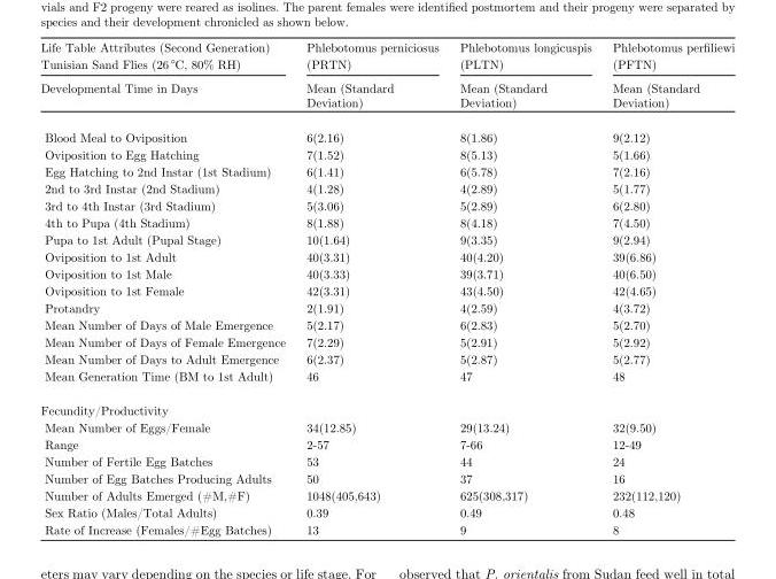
<table><thead><tr><td rowspan="3">Life Table Attributes (Second Generation) Tunisian Sand Flies (26 °C, 80% RH) Developmental Time in Days</td><td rowspan="3">Phlebotomus perniciosus (PRTN) Mean (Standard Deviation)</td><td rowspan="3">Phlebotomus longicuspis (PLTN) Mean (Standard Deviation)</td><td rowspan="3">Phlebotomus perfiliewi (PFTN) Mean (Standard Deviation)</td></tr><tr></tr><tr></tr></thead><tbody><tr><td>Blood Meal to Oviposition</td><td>6(2.16)</td><td>8(1.86)</td><td>9(2.12)</td></tr><tr><td>Oviposition to Egg Hatching</td><td>7(1.52)</td><td>8(5.13)</td><td>5(1.66)</td></tr><tr><td>Egg Hatching to 2nd Instar (1st Stadium)</td><td>6(1.41)</td><td>6(5.78)</td><td>7(2.16)</td></tr><tr><td>2nd to 3rd Instar (2nd Stadium)</td><td>4(1.28)</td><td>4(2.89)</td><td>5(1.77)</td></tr><tr><td>3rd to 4th Instar (3rd Stadium)</td><td>5(3.06)</td><td>5(2.89)</td><td>6(2.80)</td></tr><tr><td>4th to Pupa (4th Stadium)</td><td>8(1.88)</td><td>8(4.18)</td><td>7(4.50)</td></tr><tr><td>Pupa to 1st Adult (Pupal Stage)</td><td>10(1.64)</td><td>9(3.35)</td><td>9(2.94)</td></tr><tr><td>Oviposition to 1st Adult</td><td>40(3.31)</td><td>40(4.20)</td><td>39(6.86)</td></tr><tr><td>Oviposition to 1st Male</td><td>40(3.33)</td><td>39(3.71)</td><td>40(6.50)</td></tr><tr><td>Oviposition to 1st Female</td><td>42(3.31)</td><td>43(4.50)</td><td>42(4.65)</td></tr><tr><td>Protandry</td><td>2(1.91)</td><td>4(2.59)</td><td>4(3.72)</td></tr><tr><td>Mean Number of Days of Male Emergence</td><td>5(2.17)</td><td>6(2.83)</td><td>5(2.70)</td></tr><tr><td>Mean Number of Days of Female Emergence</td><td>7(2.29)</td><td>5(2.91)</td><td>5(2.92)</td></tr><tr><td>Mean Number of Days to Adult Emergence</td><td>6(2.37)</td><td>5(2.87)</td><td>5(2.77)</td></tr><tr><td>Mean Generation Time (BM to 1st Adult)</td><td>46</td><td>47</td><td>48</td></tr><tr><td colspan="4">Fecundity/Productivity</td></tr><tr><td>Mean Number of Eggs/Female</td><td>34(12.85)</td><td>29(13.24)</td><td>32(9.50)</td></tr><tr><td>Range</td><td>2-57</td><td>7-66</td><td>12-49</td></tr><tr><td>Number of Fertile Egg Batches</td><td>53</td><td>44</td><td>24</td></tr><tr><td>Number of Egg Batches Producing Adults</td><td>50</td><td>37</td><td>16</td></tr><tr><td>Number of Adults Emerged (#M,#F)</td><td>1048(405,643)</td><td>625(308,317)</td><td>232(112,120)</td></tr><tr><td>Sex Ratio (Males/Total Adults)</td><td>0.39</td><td>0.49</td><td>0.48</td></tr><tr><td>Rate of Increase (Females/#Egg Batches)</td><td>13</td><td>9</td><td>8</td></tr></tbody></table>